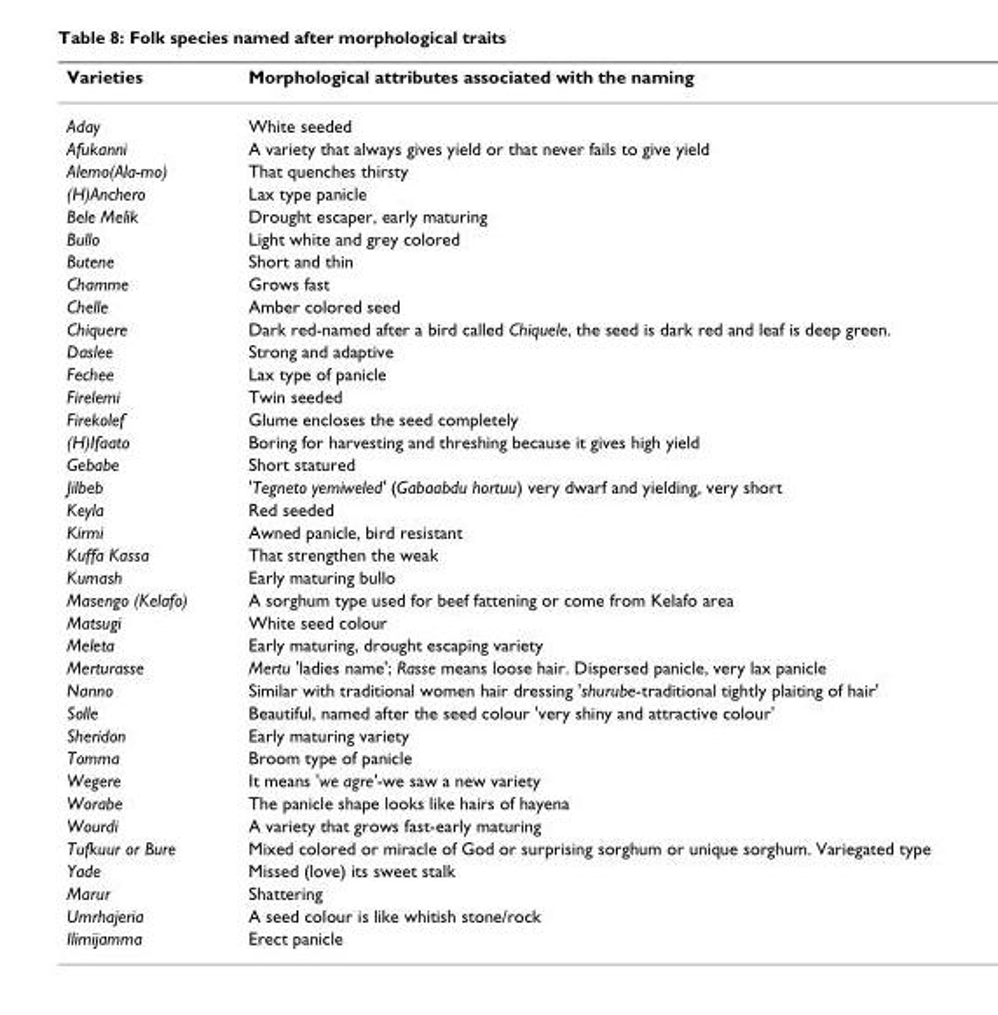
<table><thead><tr><td>Varieties</td><td>Morphological attributes associated with the naming</td></tr></thead><tbody><tr><td>Aday</td><td>White seeded</td></tr><tr><td>Afukanni</td><td>A variety that always gives yield or that never fails to give yield</td></tr><tr><td>Alemo(Ala-mo)</td><td>That quenches thirsty</td></tr><tr><td>(H)Anchero</td><td>Lax type panicle</td></tr><tr><td>Bele Melik</td><td>Drought escaper, early maturing</td></tr><tr><td>Bullo</td><td>Light white and grey colored</td></tr><tr><td>Butene</td><td>Short and thin</td></tr><tr><td>Chamme</td><td>Grows fast</td></tr><tr><td>Chelle</td><td>Amber colored seed</td></tr><tr><td>Chiquere</td><td>Dark red-named after a bird called Chiquele, the seed is dark red and leaf is deep green.</td></tr><tr><td>Daslee</td><td>Strong and adaptive</td></tr><tr><td>Fechee</td><td>Lax type of panicle</td></tr><tr><td>Firelemi</td><td>Twin seeded</td></tr><tr><td>Firekolef</td><td>Glume encloses the seed completely</td></tr><tr><td>(H)Ifaato</td><td>Boring for harvesting and threshing because it gives high yield</td></tr><tr><td>Gebabe</td><td>Short statured</td></tr><tr><td>Jilbeb</td><td>&#x27;Tegneto yemiweled&#x27; (Gabaabdu hortuu) very dwarf and yielding, very short</td></tr><tr><td>Keyla</td><td>Red seeded</td></tr><tr><td>Kirmi</td><td>Awned panicle, bird resistant</td></tr><tr><td>Kuffa Kassa</td><td>That strengthen the weak</td></tr><tr><td>Kumash</td><td>Early maturing bullo</td></tr><tr><td>Masengo (Kelafo)</td><td>A sorghum type used for beef fattening or come from Kelafo area</td></tr><tr><td>Matsugi</td><td>White seed colour</td></tr><tr><td>Meleta</td><td>Early maturing, drought escaping variety</td></tr><tr><td>Merturasse</td><td>Mertu &#x27;ladies name&#x27;; Rasse means loose hair. Dispersed panicle, very lax panicle</td></tr><tr><td>Nanno</td><td>Similar with traditional women hair dressing &#x27;shurube-traditional tightly plaiting of hair&#x27;</td></tr><tr><td>Solle</td><td>Beautiful, named after the seed colour &#x27;very shiny and attractive colour&#x27;</td></tr><tr><td>Sheridon</td><td>Early maturing variety</td></tr><tr><td>Tomma</td><td>Broom type of panicle</td></tr><tr><td>Wegere</td><td>It means &#x27;we agre&#x27;-we saw a new variety</td></tr><tr><td>Worabe</td><td>The panicle shape looks like hairs of hayena</td></tr><tr><td>Wourdi</td><td>A variety that grows fast-early maturing</td></tr><tr><td>Tufkuur or Bure</td><td>Mixed colored or miracle of God or surprising sorghum or unique sorghum. Variegated type</td></tr><tr><td>Yade</td><td>Missed (love) its sweet stalk</td></tr><tr><td>Marur</td><td>Shattering</td></tr><tr><td>Umrhajeria</td><td>A seed colour is like whitish stone/rock</td></tr><tr><td>Ilimijamma</td><td>Erect panicle</td></tr></tbody></table>